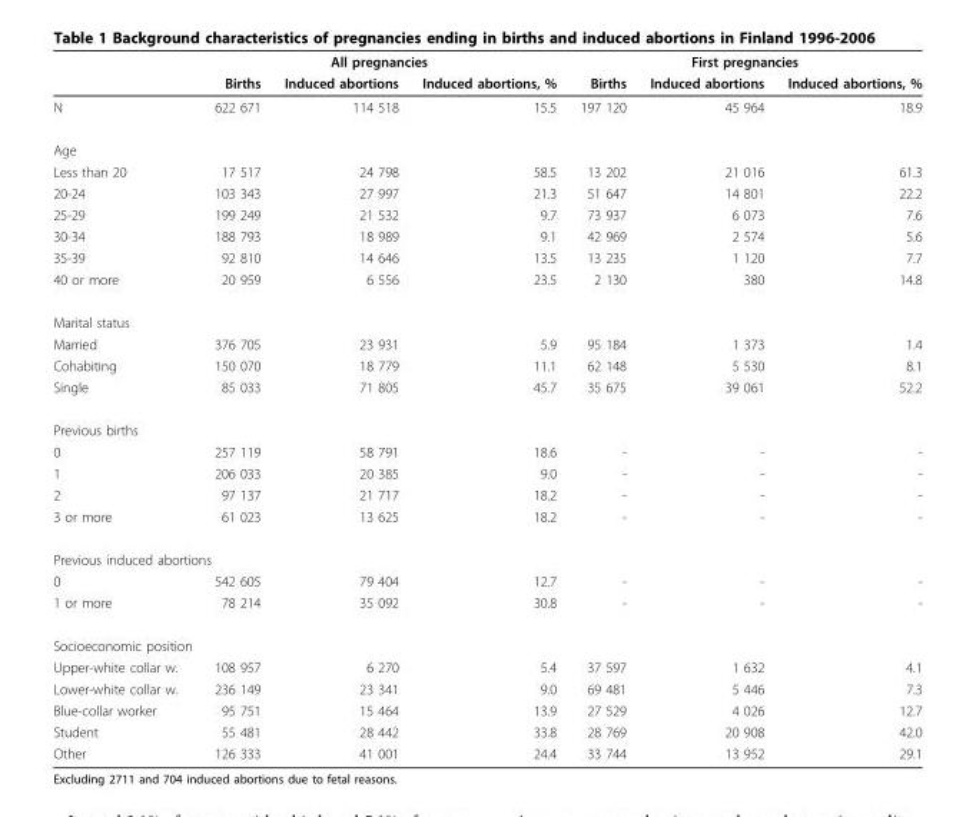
<table><thead><tr><td rowspan="2"></td><td colspan="3">All pregnancies</td><td colspan="3">First pregnancies</td></tr><tr><td>Births</td><td>Induced abortions</td><td>Induced abortions, %</td><td>Births</td><td>Induced abortions</td><td>Induced abortions, %</td></tr></thead><tbody><tr><td>N</td><td>622 671</td><td>114 518</td><td>15.5</td><td>197 120</td><td>45 964</td><td>18.9</td></tr><tr><td colspan="7">Age</td></tr><tr><td>Less than 20</td><td>17 517</td><td>24 798</td><td>58.5</td><td>13 202</td><td>21 016</td><td>61.3</td></tr><tr><td>20-24</td><td>103 343</td><td>27 997</td><td>21.3</td><td>51 647</td><td>14 801</td><td>22.2</td></tr><tr><td>25-29</td><td>199 249</td><td>21 532</td><td>9.7</td><td>73 937</td><td>6 073</td><td>7.6</td></tr><tr><td>30-34</td><td>188 793</td><td>18 989</td><td>9.1</td><td>42 969</td><td>2 574</td><td>5.6</td></tr><tr><td>35-39</td><td>92 810</td><td>14 646</td><td>13.5</td><td>13 235</td><td>1 120</td><td>7.7</td></tr><tr><td>40 or more</td><td>20 959</td><td>6 556</td><td>23.5</td><td>2 130</td><td>380</td><td>14.8</td></tr><tr><td colspan="7">Marital status</td></tr><tr><td>Married</td><td>376 705</td><td>23 931</td><td>5.9</td><td>95 184</td><td>1 373</td><td>1.4</td></tr><tr><td>Cohabiting</td><td>150 070</td><td>18 779</td><td>11.1</td><td>62 148</td><td>5 530</td><td>8.1</td></tr><tr><td>Single</td><td>85 033</td><td>71 805</td><td>45.7</td><td>35 675</td><td>39 061</td><td>52.2</td></tr><tr><td colspan="7">Previous births</td></tr><tr><td>0</td><td>257 119</td><td>58 791</td><td>18.6</td><td>-</td><td>-</td><td>-</td></tr><tr><td>1</td><td>206 033</td><td>20 385</td><td>9.0</td><td>-</td><td>-</td><td>-</td></tr><tr><td>2</td><td>97 137</td><td>21 717</td><td>18.2</td><td>-</td><td>-</td><td>-</td></tr><tr><td>3 or more</td><td>61 023</td><td>13 625</td><td>18.2</td><td>-</td><td>-</td><td>-</td></tr><tr><td colspan="7">Previous induced abortions</td></tr><tr><td>0</td><td>542 605</td><td>79 404</td><td>12.7</td><td>-</td><td>-</td><td>-</td></tr><tr><td>1 or more</td><td>78 214</td><td>35 092</td><td>30.8</td><td>-</td><td>-</td><td>-</td></tr><tr><td colspan="7">Socioeconomic position</td></tr><tr><td>Upper-white collar w.</td><td>108 957</td><td>6 270</td><td>5.4</td><td>37 597</td><td>1 632</td><td>4.1</td></tr><tr><td>Lower-white collar w.</td><td>236 149</td><td>23 341</td><td>9.0</td><td>69 481</td><td>5 446</td><td>7.3</td></tr><tr><td>Blue-collar worker</td><td>95 751</td><td>15 464</td><td>13.9</td><td>27 529</td><td>4 026</td><td>12.7</td></tr><tr><td>Student</td><td>55 481</td><td>28 442</td><td>33.8</td><td>28 769</td><td>20 908</td><td>42.0</td></tr><tr><td>Other</td><td>126 333</td><td>41 001</td><td>24.4</td><td>33 744</td><td>13 952</td><td>29.1</td></tr></tbody></table>